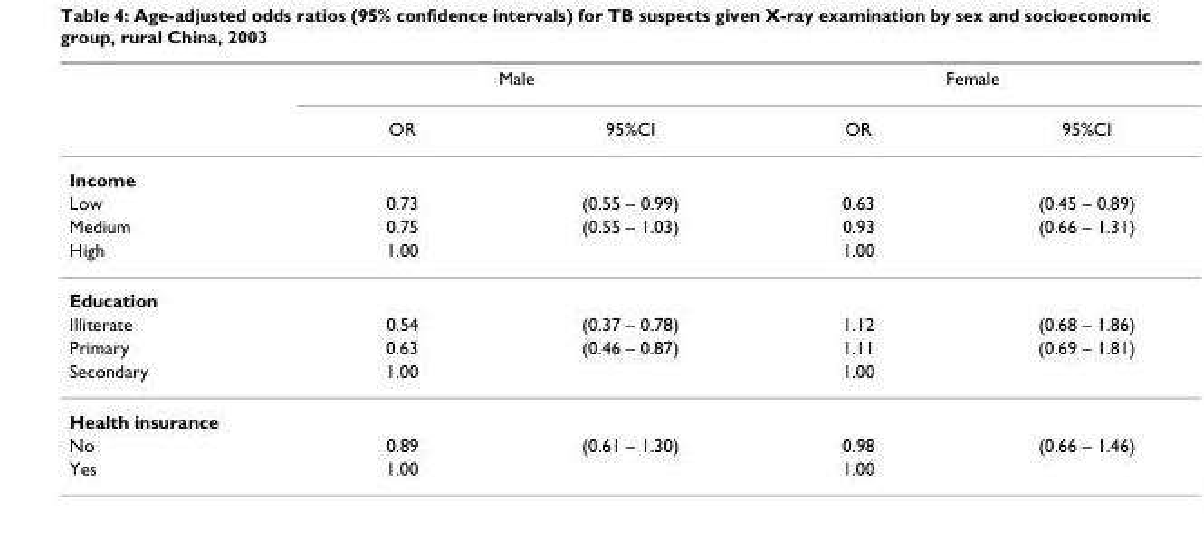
<table><thead><tr><td rowspan="2"></td><td colspan="2">Male</td><td colspan="2">Female</td></tr><tr><td>OR</td><td>95%CI</td><td>OR</td><td>95%CI</td></tr></thead><tbody><tr><td colspan="5">Income</td></tr><tr><td>Low</td><td>0.73</td><td>(0.55 – 0.99)</td><td>0.63</td><td>(0.45 – 0.89)</td></tr><tr><td>Medium</td><td>0.75</td><td>(0.55 – 1.03)</td><td>0.93</td><td>(0.66 – 1.31)</td></tr><tr><td>High</td><td>1.00</td><td></td><td>1.00</td><td></td></tr><tr><td colspan="5">Education</td></tr><tr><td>Illiterate</td><td>0.54</td><td>(0.37 – 0.78)</td><td>1.12</td><td>(0.68 – 1.86)</td></tr><tr><td>Primary</td><td>0.63</td><td>(0.46 – 0.87)</td><td>1.11</td><td>(0.69 – 1.81)</td></tr><tr><td>Secondary</td><td>1.00</td><td></td><td>1.00</td><td></td></tr><tr><td colspan="5">Health insurance</td></tr><tr><td>No</td><td>0.89</td><td>(0.61 – 1.30)</td><td>0.98</td><td>(0.66 – 1.46)</td></tr><tr><td>Yes</td><td>1.00</td><td></td><td>1.00</td><td></td></tr></tbody></table>